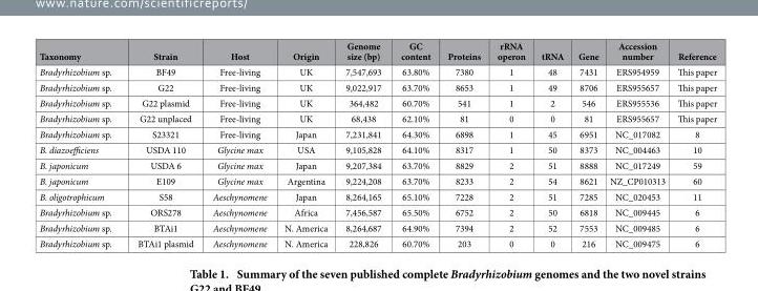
<table><thead><tr><td>Taxonomy</td><td>Strain</td><td>Host</td><td>Origin</td><td>Genome size (bp)</td><td>GC content</td><td>Proteins</td><td>rRNA operon</td><td>tRNA</td><td>Gene</td><td>Accession number</td><td>Reference</td></tr></thead><tbody><tr><td>Bradyrhizobium sp.</td><td>BF49</td><td>Free-living</td><td>UK</td><td>7,547,693</td><td>63.80%</td><td>7380</td><td>1</td><td>48</td><td>7431</td><td>ERS954959</td><td>This paper</td></tr><tr><td>Bradyrhizobium sp.</td><td>G22</td><td>Free-living</td><td>UK</td><td>9,022,917</td><td>63.70%</td><td>8653</td><td>1</td><td>49</td><td>8706</td><td>ERS955657</td><td>This paper</td></tr><tr><td>Bradyrhizobium sp.</td><td>G22 plasmid</td><td>Free-living</td><td>UK</td><td>364,482</td><td>60.70%</td><td>541</td><td>1</td><td>2</td><td>546</td><td>ERS955536</td><td>This paper</td></tr><tr><td>Bradyrhizobium sp.</td><td>G22 unplaced</td><td>Free-living</td><td>UK</td><td>68,438</td><td>62.10%</td><td>81</td><td>0</td><td>0</td><td>81</td><td>ERS955657</td><td>This paper</td></tr><tr><td>Bradyrhizobium sp.</td><td>S23321</td><td>Free-living</td><td>Japan</td><td>7,231,841</td><td>64.30%</td><td>6898</td><td>1</td><td>45</td><td>6951</td><td>NC_017082</td><td>8</td></tr><tr><td>B. diazoefficiens</td><td>USDA 110</td><td>Glycine max</td><td>USA</td><td>9,105,828</td><td>64.10%</td><td>8317</td><td>1</td><td>50</td><td>8373</td><td>NC_004463</td><td>10</td></tr><tr><td>B. japonicum</td><td>USDA 6</td><td>Glycine max</td><td>Japan</td><td>9,207,384</td><td>63.70%</td><td>8829</td><td>2</td><td>51</td><td>8888</td><td>NC_017249</td><td>59</td></tr><tr><td>B. japonicum</td><td>E109</td><td>Glycine max</td><td>Argentina</td><td>9,224,208</td><td>63.70%</td><td>8233</td><td>2</td><td>54</td><td>8621</td><td>NZ_CP010313</td><td>60</td></tr><tr><td>B. oligotrophicum</td><td>S58</td><td>Aeschynomene</td><td>Japan</td><td>8,264,165</td><td>65.10%</td><td>7228</td><td>2</td><td>51</td><td>7285</td><td>NC_020453</td><td>11</td></tr><tr><td>Bradyrhizobium sp.</td><td>ORS278</td><td>Aeschynomene</td><td>Africa</td><td>7,456,587</td><td>65.50%</td><td>6752</td><td>2</td><td>50</td><td>6818</td><td>NC_009445</td><td>6</td></tr><tr><td>Bradyrhizobium sp.</td><td>BTAi1</td><td>Aeschynomene</td><td>N. America</td><td>8,264,687</td><td>64.90%</td><td>7394</td><td>2</td><td>52</td><td>7553</td><td>NC_009485</td><td>6</td></tr><tr><td>Bradyrhizobium sp.</td><td>BTAi1 plasmid</td><td>Aeschynomene</td><td>N. America</td><td>228,826</td><td>60.70%</td><td>203</td><td>0</td><td>0</td><td>216</td><td>NC_009475</td><td>6</td></tr></tbody></table>